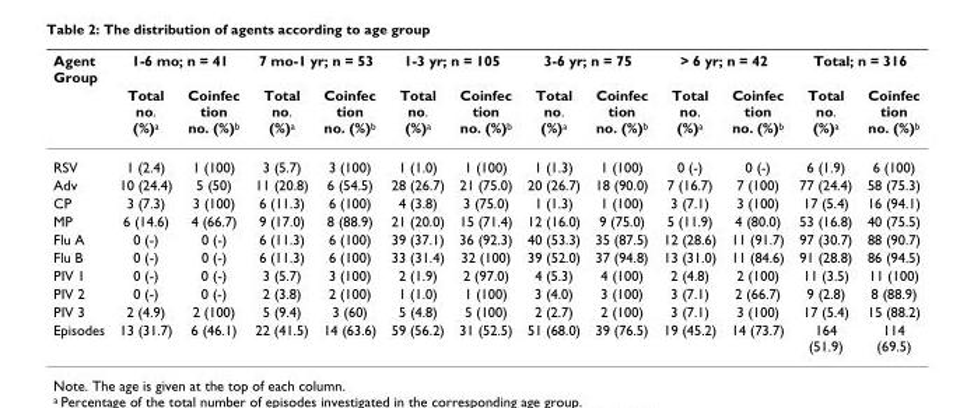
<table><thead><tr><td rowspan="2">Agent Group</td><td colspan="2">1-6 mo; n = 41</td><td colspan="2">7 mo-1 yr; n = 53</td><td colspan="2">1-3 yr; n = 105</td><td colspan="2">3-6 yr; n = 75</td><td colspan="2">&gt; 6 yr; n = 42</td><td colspan="2">Total; n = 316</td></tr><tr><td>Total no. (%)<sup>a</sup></td><td>Coinfec tion no. (%)<sup>b</sup></td><td>Total no. (%)<sup>a</sup></td><td>Coinfec tion no. (%)<sup>b</sup></td><td>Total no. (%)<sup>a</sup></td><td>Coinfec tion no. (%)<sup>b</sup></td><td>Total no. (%)<sup>a</sup></td><td>Coinfec tion no. (%)<sup>b</sup></td><td>Total no. (%)<sup>a</sup></td><td>Coinfec tion no. (%)<sup>b</sup></td><td>Total no. (%)<sup>a</sup></td><td>Coinfec tion no. (%)<sup>b</sup></td></tr></thead><tbody><tr><td>RSV</td><td>1 (2.4)</td><td>1 (100)</td><td>3 (5.7)</td><td>3 (100)</td><td>1 (1.0)</td><td>1 (100)</td><td>1 (1.3)</td><td>1 (100)</td><td>0 (-)</td><td>0 (-)</td><td>6 (1.9)</td><td>6 (100)</td></tr><tr><td>Adv</td><td>10 (24.4)</td><td>5 (50)</td><td>11 (20.8)</td><td>6 (54.5)</td><td>28 (26.7)</td><td>21 (75.0)</td><td>20 (26.7)</td><td>18 (90.0)</td><td>7 (16.7)</td><td>7 (100)</td><td>77 (24.4)</td><td>58 (75.3)</td></tr><tr><td>CP</td><td>3 (7.3)</td><td>3 (100)</td><td>6 (11.3)</td><td>6 (100)</td><td>4 (3.8)</td><td>3 (75.0)</td><td>1 (1.3)</td><td>1 (100)</td><td>3 (7.1)</td><td>3 (100)</td><td>17 (5.4)</td><td>16 (94.1)</td></tr><tr><td>MP</td><td>6 (14.6)</td><td>4 (66.7)</td><td>9 (17.0)</td><td>8 (88.9)</td><td>21 (20.0)</td><td>15 (71.4)</td><td>12 (16.0)</td><td>9 (75.0)</td><td>5 (11.9)</td><td>4 (80.0)</td><td>53 (16.8)</td><td>40 (75.5)</td></tr><tr><td>Flu A</td><td>0 (-)</td><td>0 (-)</td><td>6 (11.3)</td><td>6 (100)</td><td>39 (37.1)</td><td>36 (92.3)</td><td>40 (53.3)</td><td>35 (87.5)</td><td>12 (28.6)</td><td>11 (91.7)</td><td>97 (30.7)</td><td>88 (90.7)</td></tr><tr><td>Flu B</td><td>0 (-)</td><td>0 (-)</td><td>6 (11.3)</td><td>6 (100)</td><td>33 (31.4)</td><td>32 (100)</td><td>39 (52.0)</td><td>37 (94.8)</td><td>13 (31.0)</td><td>11 (84.6)</td><td>91 (28.8)</td><td>86 (94.5)</td></tr><tr><td>PIV 1</td><td>0 (-)</td><td>0 (-)</td><td>3 (5.7)</td><td>3 (100)</td><td>2 (1.9)</td><td>2 (97.0)</td><td>4 (5.3)</td><td>4 (100)</td><td>2 (4.8)</td><td>2 (100)</td><td>11 (3.5)</td><td>11 (100)</td></tr><tr><td>PIV 2</td><td>0 (-)</td><td>0 (-)</td><td>2 (3.8)</td><td>2 (100)</td><td>1 (1.0)</td><td>1 (100)</td><td>3 (4.0)</td><td>3 (100)</td><td>3 (7.1)</td><td>2 (66.7)</td><td>9 (2.8)</td><td>8 (88.9)</td></tr><tr><td>PIV 3</td><td>2 (4.9)</td><td>2 (100)</td><td>5 (9.4)</td><td>3 (60)</td><td>5 (4.8)</td><td>5 (100)</td><td>2 (2.7)</td><td>2 (100)</td><td>3 (7.1)</td><td>3 (100)</td><td>17 (5.4)</td><td>15 (88.2)</td></tr><tr><td>Episodes</td><td>13 (31.7)</td><td>6 (46.1)</td><td>22 (41.5)</td><td>14 (63.6)</td><td>59 (56.2)</td><td>31 (52.5)</td><td>51 (68.0)</td><td>39 (76.5)</td><td>19 (45.2)</td><td>14 (73.7)</td><td>164 (51.9)</td><td>114 (69.5)</td></tr></tbody></table>